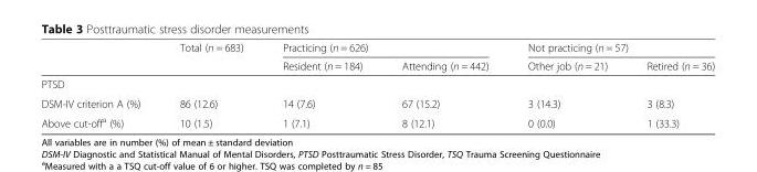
<table><thead><tr><td rowspan="2"></td><td rowspan="2">Total (n = 683)</td><td colspan="2">Practicing (n = 626)</td><td colspan="2">Not practicing (n = 57)</td></tr><tr><td>Resident (n = 184)</td><td>Attending (n = 442)</td><td>Other job (n = 21)</td><td>Retired (n = 36)</td></tr></thead><tbody><tr><td colspan="6">PTSD</td></tr><tr><td>DSM-IV criterion A (%)</td><td>86 (12.6)</td><td>14 (7.6)</td><td>67 (15.2)</td><td>3 (14.3)</td><td>3 (8.3)</td></tr><tr><td>Above cut-off<sup>a</sup> (%)</td><td>10 (1.5)</td><td>1 (7.1)</td><td>8 (12.1)</td><td>0 (0.0)</td><td>1 (33.3)</td></tr></tbody></table>